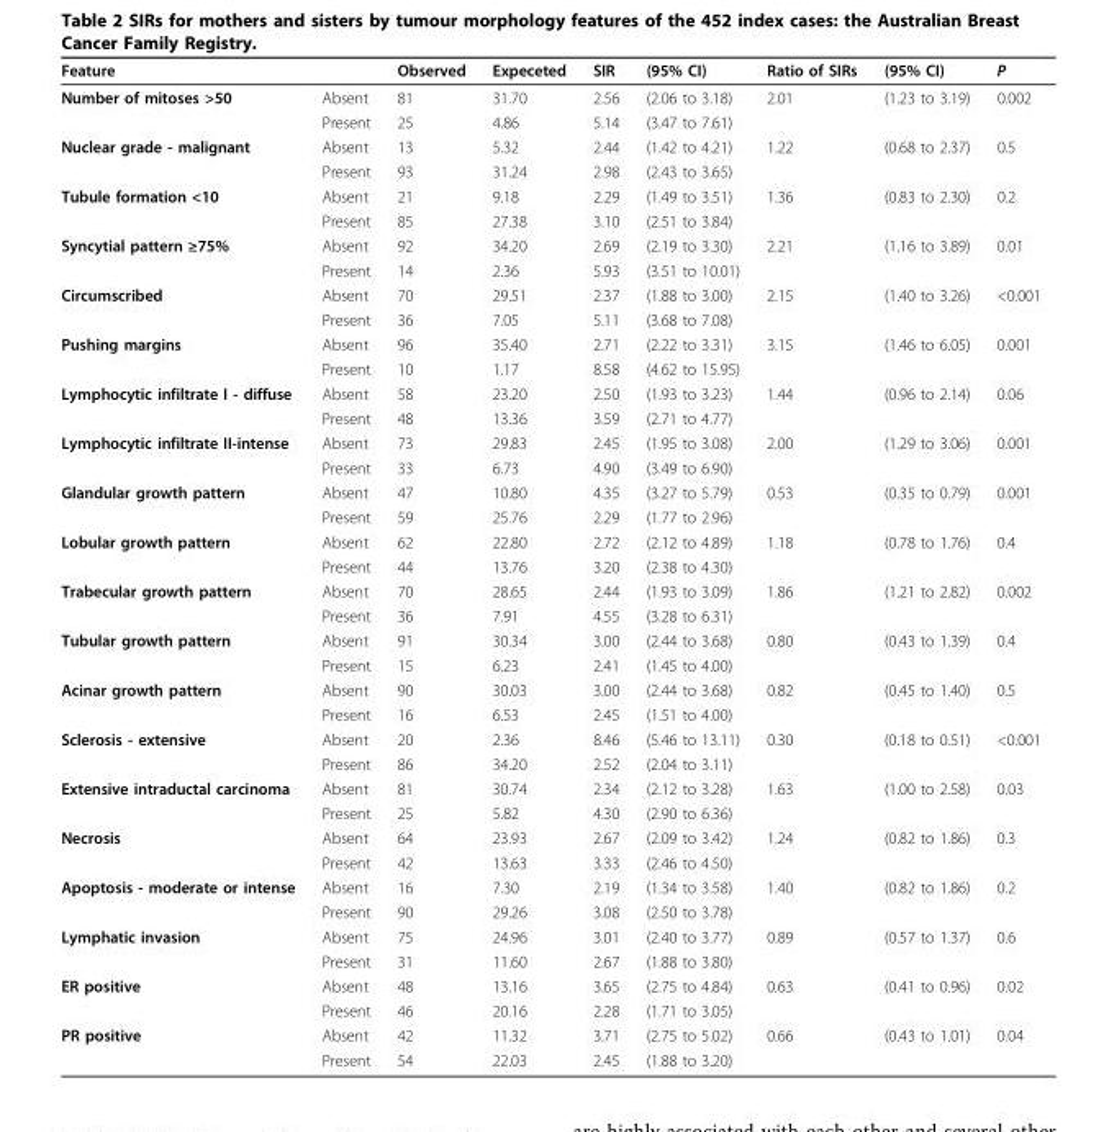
<table><thead><tr><td>Feature</td><td></td><td>Observed</td><td>Expeceted</td><td>SIR</td><td>(95% CI)</td><td>Ratio of SIRs</td><td>(95% CI)</td><td>P</td></tr></thead><tbody><tr><td rowspan="2">Number of mitoses &gt;50</td><td>Absent</td><td>81</td><td>31.70</td><td>2.56</td><td>(2.06 to 3.18)</td><td>2.01</td><td>(1.23 to 3.19)</td><td>0.002</td></tr><tr><td>Present</td><td>25</td><td>4.86</td><td>5.14</td><td>(3.47 to 7.61)</td><td></td><td></td><td></td></tr><tr><td rowspan="2">Nuclear grade - malignant</td><td>Absent</td><td>13</td><td>5.32</td><td>2.44</td><td>(1.42 to 4.21)</td><td>1.22</td><td>(0.68 to 2.37)</td><td>0.5</td></tr><tr><td>Present</td><td>93</td><td>31.24</td><td>2.98</td><td>(2.43 to 3.65)</td><td></td><td></td><td></td></tr><tr><td rowspan="2">Tubule formation &lt;10</td><td>Absent</td><td>21</td><td>9.18</td><td>2.29</td><td>(1.49 to 3.51)</td><td>1.36</td><td>(0.83 to 2.30)</td><td>0.2</td></tr><tr><td>Present</td><td>85</td><td>27.38</td><td>3.10</td><td>(2.51 to 3.84)</td><td></td><td></td><td></td></tr><tr><td rowspan="2">Syncytial pattern ≥75%</td><td>Absent</td><td>92</td><td>34.20</td><td>2.69</td><td>(2.19 to 3.30)</td><td>2.21</td><td>(1.16 to 3.89)</td><td>0.01</td></tr><tr><td>Present</td><td>14</td><td>2.36</td><td>5.93</td><td>(3.51 to 10.01)</td><td></td><td></td><td></td></tr><tr><td rowspan="2">Circumscribed</td><td>Absent</td><td>70</td><td>29.51</td><td>2.37</td><td>(1.88 to 3.00)</td><td>2.15</td><td>(1.40 to 3.26)</td><td>&lt;0.001</td></tr><tr><td>Present</td><td>36</td><td>7.05</td><td>5.11</td><td>(3.68 to 7.08)</td><td></td><td></td><td></td></tr><tr><td rowspan="2">Pushing margins</td><td>Absent</td><td>96</td><td>35.40</td><td>2.71</td><td>(2.22 to 3.31)</td><td>3.15</td><td>(1.46 to 6.05)</td><td>0.001</td></tr><tr><td>Present</td><td>10</td><td>1.17</td><td>8.58</td><td>(4.62 to 15.95)</td><td></td><td></td><td></td></tr><tr><td rowspan="2">Lymphocytic infiltrate I - diffuse</td><td>Absent</td><td>58</td><td>23.20</td><td>2.50</td><td>(1.93 to 3.23)</td><td>1.44</td><td>(0.96 to 2.14)</td><td>0.06</td></tr><tr><td>Present</td><td>48</td><td>13.36</td><td>3.59</td><td>(2.71 to 4.77)</td><td></td><td></td><td></td></tr><tr><td rowspan="2">Lymphocytic infiltrate II-intense</td><td>Absent</td><td>73</td><td>29.83</td><td>2.45</td><td>(1.95 to 3.08)</td><td>2.00</td><td>(1.29 to 3.06)</td><td>0.001</td></tr><tr><td>Present</td><td>33</td><td>6.73</td><td>4.90</td><td>(3.49 to 6.90)</td><td></td><td></td><td></td></tr><tr><td rowspan="2">Glandular growth pattern</td><td>Absent</td><td>47</td><td>10.80</td><td>4.35</td><td>(3.27 to 5.79)</td><td>0.53</td><td>(0.35 to 0.79)</td><td>0.001</td></tr><tr><td>Present</td><td>59</td><td>25.76</td><td>2.29</td><td>(1.77 to 2.96)</td><td></td><td></td><td></td></tr><tr><td rowspan="2">Lobular growth pattern</td><td>Absent</td><td>62</td><td>22.80</td><td>2.72</td><td>(2.12 to 4.89)</td><td>1.18</td><td>(0.78 to 1.76)</td><td>0.4</td></tr><tr><td>Present</td><td>44</td><td>13.76</td><td>3.20</td><td>(2.38 to 4.30)</td><td></td><td></td><td></td></tr><tr><td rowspan="2">Trabecular growth pattern</td><td>Absent</td><td>70</td><td>28.65</td><td>2.44</td><td>(1.93 to 3.09)</td><td>1.86</td><td>(1.21 to 2.82)</td><td>0.002</td></tr><tr><td>Present</td><td>36</td><td>7.91</td><td>4.55</td><td>(3.28 to 6.31)</td><td></td><td></td><td></td></tr><tr><td rowspan="2">Tubular growth pattern</td><td>Absent</td><td>91</td><td>30.34</td><td>3.00</td><td>(2.44 to 3.68)</td><td>0.80</td><td>(0.43 to 1.39)</td><td>0.4</td></tr><tr><td>Present</td><td>15</td><td>6.23</td><td>2.41</td><td>(1.45 to 4.00)</td><td></td><td></td><td></td></tr><tr><td rowspan="2">Acinar growth pattern</td><td>Absent</td><td>90</td><td>30.03</td><td>3.00</td><td>(2.44 to 3.68)</td><td>0.82</td><td>(0.45 to 1.40)</td><td>0.5</td></tr><tr><td>Present</td><td>16</td><td>6.53</td><td>2.45</td><td>(1.51 to 4.00)</td><td></td><td></td><td></td></tr><tr><td rowspan="2">Sclerosis - extensive</td><td>Absent</td><td>20</td><td>2.36</td><td>8.46</td><td>(5.46 to 13.11)</td><td>0.30</td><td>(0.18 to 0.51)</td><td>&lt;0.001</td></tr><tr><td>Present</td><td>86</td><td>34.20</td><td>2.52</td><td>(2.04 to 3.11)</td><td></td><td></td><td></td></tr><tr><td rowspan="2">Extensive intraductal carcinoma</td><td>Absent</td><td>81</td><td>30.74</td><td>2.34</td><td>(2.12 to 3.28)</td><td>1.63</td><td>(1.00 to 2.58)</td><td>0.03</td></tr><tr><td>Present</td><td>25</td><td>5.82</td><td>4.30</td><td>(2.90 to 6.36)</td><td></td><td></td><td></td></tr><tr><td rowspan="2">Necrosis</td><td>Absent</td><td>64</td><td>23.93</td><td>2.67</td><td>(2.09 to 3.42)</td><td>1.24</td><td>(0.82 to 1.86)</td><td>0.3</td></tr><tr><td>Present</td><td>42</td><td>13.63</td><td>3.33</td><td>(2.46 to 4.50)</td><td></td><td></td><td></td></tr><tr><td rowspan="2">Apoptosis - moderate or intense</td><td>Absent</td><td>16</td><td>7.30</td><td>2.19</td><td>(1.34 to 3.58)</td><td>1.40</td><td>(0.82 to 1.86)</td><td>0.2</td></tr><tr><td>Present</td><td>90</td><td>29.26</td><td>3.08</td><td>(2.50 to 3.78)</td><td></td><td></td><td></td></tr><tr><td rowspan="2">Lymphatic invasion</td><td>Absent</td><td>75</td><td>24.96</td><td>3.01</td><td>(2.40 to 3.77)</td><td>0.89</td><td>(0.57 to 1.37)</td><td>0.6</td></tr><tr><td>Present</td><td>31</td><td>11.60</td><td>2.67</td><td>(1.88 to 3.80)</td><td></td><td></td><td></td></tr><tr><td rowspan="2">ER positive</td><td>Absent</td><td>48</td><td>13.16</td><td>3.65</td><td>(2.75 to 4.84)</td><td>0.63</td><td>(0.41 to 0.96)</td><td>0.02</td></tr><tr><td>Present</td><td>46</td><td>20.16</td><td>2.28</td><td>(1.71 to 3.05)</td><td></td><td></td><td></td></tr><tr><td rowspan="2">PR positive</td><td>Absent</td><td>42</td><td>11.32</td><td>3.71</td><td>(2.75 to 5.02)</td><td>0.66</td><td>(0.43 to 1.01)</td><td>0.04</td></tr><tr><td>Present</td><td>54</td><td>22.03</td><td>2.45</td><td>(1.88 to 3.20)</td><td></td><td></td><td></td></tr></tbody></table>